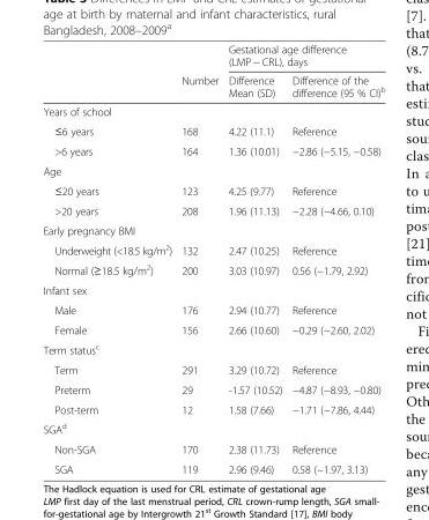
<table><thead><tr><td rowspan="2"></td><td rowspan="2">Number</td><td colspan="2">Gestational age difference (LMP − CRL), days</td></tr><tr><td>Difference Mean (SD)</td><td>Difference of the difference (95 % CI)<sup>b</sup></td></tr></thead><tbody><tr><td colspan="4">Years of school</td></tr><tr><td>≤6 years</td><td>168</td><td>4.22 (11.1)</td><td>Reference</td></tr><tr><td>&gt;6 years</td><td>164</td><td>1.36 (10.01)</td><td>−2.86 (−5.15, −0.58)</td></tr><tr><td colspan="4">Age</td></tr><tr><td>≤20 years</td><td>123</td><td>4.25 (9.77)</td><td>Reference</td></tr><tr><td>&gt;20 years</td><td>208</td><td>1.96 (11.13)</td><td>−2.28 (−4.66, 0.10)</td></tr><tr><td colspan="4">Early pregnancy BMI</td></tr><tr><td>Underweight (&lt;18.5 kg/m<sup>2</sup>)</td><td>132</td><td>2.47 (10.25)</td><td>Reference</td></tr><tr><td>Normal (≥18.5 kg/m<sup>2</sup>)</td><td>200</td><td>3.03 (10.97)</td><td>0.56 (−1.79, 2.92)</td></tr><tr><td colspan="4">Infant sex</td></tr><tr><td>Male</td><td>176</td><td>2.94 (10.77)</td><td>Reference</td></tr><tr><td>Female</td><td>156</td><td>2.66 (10.60)</td><td>−0.29 (−2.60, 2.02)</td></tr><tr><td colspan="4">Term status<sup>c</sup></td></tr><tr><td>Term</td><td>291</td><td>3.29 (10.72)</td><td>Reference</td></tr><tr><td>Preterm</td><td>29</td><td>-1.57 (10.52)</td><td>−4.87 (−8.93, −0.80)</td></tr><tr><td>Post-term</td><td>12</td><td>1.58 (7.66)</td><td>−1.71 (−7.86, 4.44)</td></tr><tr><td colspan="4">SGA<sup>d</sup></td></tr><tr><td>Non-SGA</td><td>170</td><td>2.38 (11.73)</td><td>Reference</td></tr><tr><td>SGA</td><td>119</td><td>2.96 (9.46)</td><td>0.58 (−1.97, 3.13)</td></tr></tbody></table>